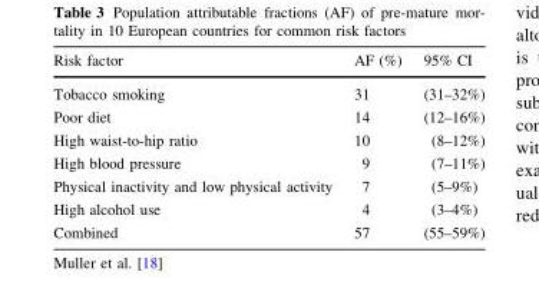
<table><thead><tr><td>Risk factor</td><td>AF (%)</td><td>95% CI</td></tr></thead><tbody><tr><td>Tobacco smoking</td><td>31</td><td>(31–32%)</td></tr><tr><td>Poor diet</td><td>14</td><td>(12–16%)</td></tr><tr><td>High waist-to-hip ratio</td><td>10</td><td>(8–12%)</td></tr><tr><td>High blood pressure</td><td>9</td><td>(7–11%)</td></tr><tr><td>Physical inactivity and low physical activity</td><td>7</td><td>(5–9%)</td></tr><tr><td>High alcohol use</td><td>4</td><td>(3–4%)</td></tr><tr><td>Combined</td><td>57</td><td>(55–59%)</td></tr></tbody></table>